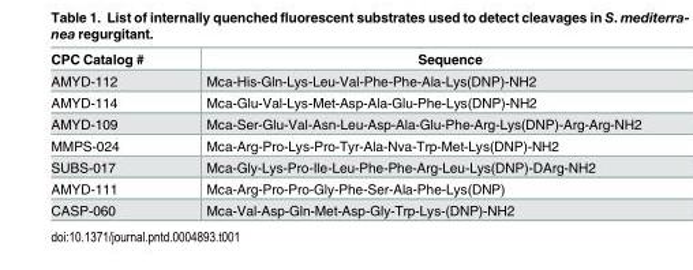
<table><thead><tr><td>CPC Catalog #</td><td>Sequence</td></tr></thead><tbody><tr><td>AMYD-112</td><td>Mca-His-Gln-Lys-Leu-Val-Phe-Phe-Ala-Lys(DNP)-NH2</td></tr><tr><td>AMYD-114</td><td>Mca-Glu-Val-Lys-Met-Asp-Ala-Glu-Phe-Lys(DNP)-NH2</td></tr><tr><td>AMYD-109</td><td>Mca-Ser-Glu-Val-Asn-Leu-Asp-Ala-Glu-Phe-Arg-Lys(DNP)-Arg-Arg-NH2</td></tr><tr><td>MMPS-024</td><td>Mca-Arg-Pro-Lys-Pro-Tyr-Ala-Nva-Trp-Met-Lys(DNP)-NH2</td></tr><tr><td>SUBS-017</td><td>Mca-Gly-Lys-Pro-Ile-Leu-Phe-Phe-Arg-Leu-Lys(DNP)-DArg-NH2</td></tr><tr><td>AMYD-111</td><td>Mca-Arg-Pro-Pro-Gly-Phe-Ser-Ala-Phe-Lys(DNP)</td></tr><tr><td>CASP-060</td><td>Mca-Val-Asp-Gln-Met-Asp-Gly-Trp-Lys-(DNP)-NH2</td></tr></tbody></table>